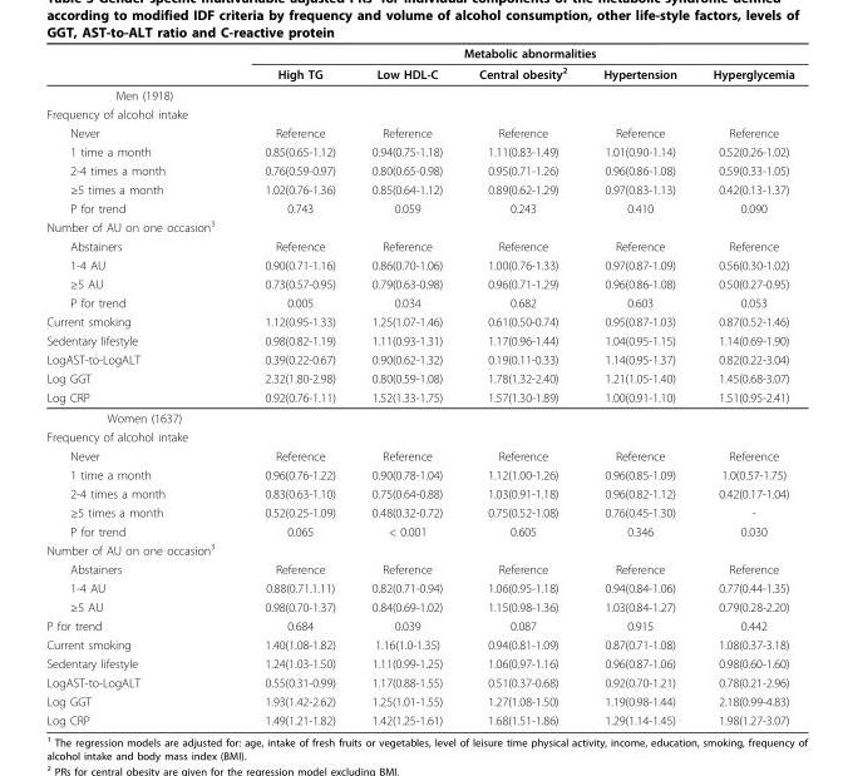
<table><thead><tr><td rowspan="2"></td><td colspan="5">Metabolic abnormalities</td></tr><tr><td>High TG</td><td>Low HDL-C</td><td>Central obesity<sup>2</sup></td><td>Hypertension</td><td>Hyperglycemia</td></tr></thead><tbody><tr><td colspan="6">Men (1918)</td></tr><tr><td colspan="6">Frequency of alcohol intake</td></tr><tr><td>Never</td><td>Reference</td><td>Reference</td><td>Reference</td><td>Reference</td><td>Reference</td></tr><tr><td>1 time a month</td><td>0.85(0.65-1.12)</td><td>0.94(0.75-1.18)</td><td>1.11(0.83-1.49)</td><td>1.01(0.90-1.14)</td><td>0.52(0.26-1.02)</td></tr><tr><td>2-4 times a month</td><td>0.76(0.59-0.97)</td><td>0.80(0.65-0.98)</td><td>0.95(0.71-1.26)</td><td>0.96(0.86-1.08)</td><td>0.59(0.33-1.05)</td></tr><tr><td>≥5 times a month</td><td>1.02(0.76-1.36)</td><td>0.85(0.64-1.12)</td><td>0.89(0.62-1.29)</td><td>0.97(0.83-1.13)</td><td>0.42(0.13-1.37)</td></tr><tr><td>P for trend</td><td>0.743</td><td>0.059</td><td>0.243</td><td>0.410</td><td>0.090</td></tr><tr><td colspan="6">Number of AU on one occasion<sup>3</sup></td></tr><tr><td>Abstainers</td><td>Reference</td><td>Reference</td><td>Reference</td><td>Reference</td><td>Reference</td></tr><tr><td>1-4 AU</td><td>0.90(0.71-1.16)</td><td>0.86(0.70-1.06)</td><td>1.00(0.76-1.33)</td><td>0.97(0.87-1.09)</td><td>0.56(0.30-1.02)</td></tr><tr><td>≥5 AU</td><td>0.73(0.57-0.95)</td><td>0.79(0.63-0.98)</td><td>0.96(0.71-1.29)</td><td>0.96(0.86-1.08)</td><td>0.50(0.27-0.95)</td></tr><tr><td>P for trend</td><td>0.005</td><td>0.034</td><td>0.682</td><td>0.603</td><td>0.053</td></tr><tr><td>Current smoking</td><td>1.12(0.95-1.33)</td><td>1.25(1.07-1.46)</td><td>0.61(0.50-0.74)</td><td>0.95(0.87-1.03)</td><td>0.87(0.52-1.46)</td></tr><tr><td>Sedentary lifestyle</td><td>0.98(0.82-1.19)</td><td>1.11(0.93-1.31)</td><td>1.17(0.96-1.44)</td><td>1.04(0.95-1.15)</td><td>1.14(0.69-1.90)</td></tr><tr><td>LogAST-to-LogALT</td><td>0.39(0.22-0.67)</td><td>0.90(0.62-1.32)</td><td>0.19(0.11-0.33)</td><td>1.14(0.95-1.37)</td><td>0.82(0.22-3.04)</td></tr><tr><td>Log GGT</td><td>2.32(1.80-2.98)</td><td>0.80(0.59-1.08)</td><td>1.78(1.32-2.40)</td><td>1.21(1.05-1.40)</td><td>1.45(0.68-3.07)</td></tr><tr><td>Log CRP</td><td>0.92(0.76-1.11)</td><td>1.52(1.33-1.75)</td><td>1.57(1.30-1.89)</td><td>1.00(0.91-1.10)</td><td>1.51(0.95-2.41)</td></tr><tr><td colspan="6">Women (1637)</td></tr><tr><td colspan="6">Frequency of alcohol intake</td></tr><tr><td>Never</td><td>Reference</td><td>Reference</td><td>Reference</td><td>Reference</td><td>Reference</td></tr><tr><td>1 time a month</td><td>0.96(0.76-1.22)</td><td>0.90(0.78-1.04)</td><td>1.12(1.00-1.26)</td><td>0.96(0.85-1.09)</td><td>1.0(0.57-1.75)</td></tr><tr><td>2-4 times a month</td><td>0.83(0.63-1.10)</td><td>0.75(0.64-0.88)</td><td>1.03(0.91-1.18)</td><td>0.96(0.82-1.12)</td><td>0.42(0.17-1.04)</td></tr><tr><td>≥5 times a month</td><td>0.52(0.25-1.09)</td><td>0.48(0.32-0.72)</td><td>0.75(0.52-1.08)</td><td>0.76(0.45-1.30)</td><td>-</td></tr><tr><td>P for trend</td><td>0.065</td><td>&lt; 0.001</td><td>0.605</td><td>0.346</td><td>0.030</td></tr><tr><td colspan="6">Number of AU on one occasion<sup>3</sup></td></tr><tr><td>Abstainers</td><td>Reference</td><td>Reference</td><td>Reference</td><td>Reference</td><td>Reference</td></tr><tr><td>1-4 AU</td><td>0.88(0.71.1.11)</td><td>0.82(0.71-0.94)</td><td>1.06(0.95-1.18)</td><td>0.94(0.84-1.06)</td><td>0.77(0.44-1.35)</td></tr><tr><td>≥5 AU</td><td>0.98(0.70-1.37)</td><td>0.84(0.69-1.02)</td><td>1.15(0.98-1.36)</td><td>1.03(0.84-1.27)</td><td>0.79(0.28-2.20)</td></tr><tr><td>P for trend</td><td>0.684</td><td>0.039</td><td>0.087</td><td>0.915</td><td>0.442</td></tr><tr><td>Current smoking</td><td>1.40(1.08-1.82)</td><td>1.16(1.0-1.35)</td><td>0.94(0.81-1.09)</td><td>0.87(0.71-1.08)</td><td>1.08(0.37-3.18)</td></tr><tr><td>Sedentary lifestyle</td><td>1.24(1.03-1.50)</td><td>1.11(0.99-1.25)</td><td>1.06(0.97-1.16)</td><td>0.96(0.87-1.06)</td><td>0.98(0.60-1.60)</td></tr><tr><td>LogAST-to-LogALT</td><td>0.55(0.31-0.99)</td><td>1.17(0.88-1.55)</td><td>0.51(0.37-0.68)</td><td>0.92(0.70-1.21)</td><td>0.78(0.21-2.96)</td></tr><tr><td>Log GGT</td><td>1.93(1.42-2.62)</td><td>1.25(1.01-1.55)</td><td>1.27(1.08-1.50)</td><td>1.19(0.98-1.44)</td><td>2.18(0.99-4.83)</td></tr><tr><td>Log CRP</td><td>1.49(1.21-1.82)</td><td>1.42(1.25-1.61)</td><td>1.68(1.51-1.86)</td><td>1.29(1.14-1.45)</td><td>1.98(1.27-3.07)</td></tr></tbody></table>